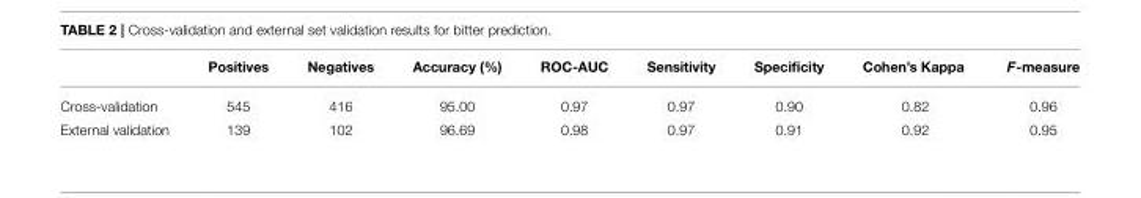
<table><thead><tr><td></td><td>Positives</td><td>Negatives</td><td>Accuracy (%)</td><td>ROC-AUC</td><td>Sensitivity</td><td>Specificity</td><td>Cohen’s Kappa</td><td>F-measure</td></tr></thead><tbody><tr><td>Cross-validation</td><td>545</td><td>416</td><td>95.00</td><td>0.97</td><td>0.97</td><td>0.90</td><td>0.82</td><td>0.96</td></tr><tr><td>External validation</td><td>139</td><td>102</td><td>96.69</td><td>0.98</td><td>0.97</td><td>0.91</td><td>0.92</td><td>0.95</td></tr></tbody></table>